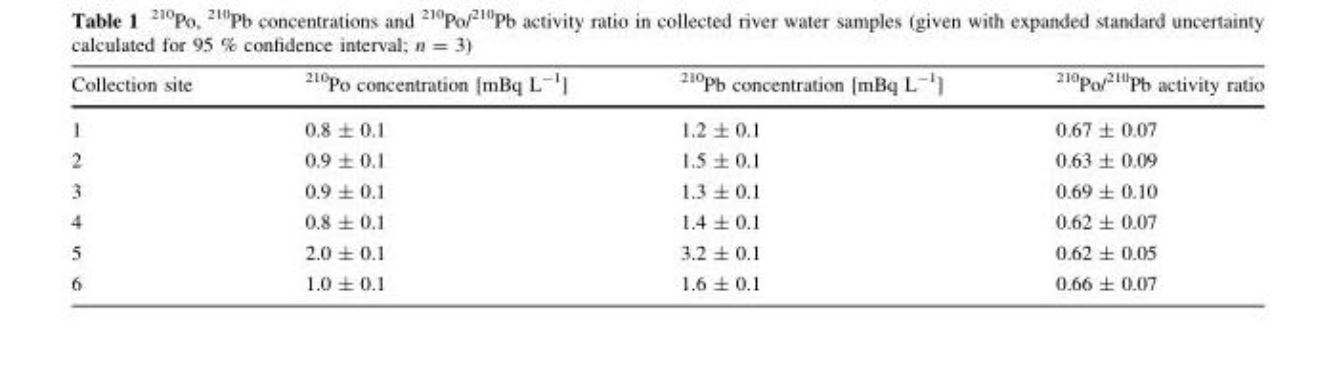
<table><thead><tr><td>Collection site</td><td><sup>210</sup>Po concentration [mBq L<sup>-1</sup>]</td><td><sup>210</sup>Pb concentration [mBq L<sup>-1</sup>]</td><td><sup>210</sup>Po/<sup>210</sup>Pb activity ratio</td></tr></thead><tbody><tr><td>1</td><td>0.8 ± 0.1</td><td>1.2 ± 0.1</td><td>0.67 ± 0.07</td></tr><tr><td>2</td><td>0.9 ± 0.1</td><td>1.5 ± 0.1</td><td>0.63 ± 0.09</td></tr><tr><td>3</td><td>0.9 ± 0.1</td><td>1.3 ± 0.1</td><td>0.69 ± 0.10</td></tr><tr><td>4</td><td>0.8 ± 0.1</td><td>1.4 ± 0.1</td><td>0.62 ± 0.07</td></tr><tr><td>5</td><td>2.0 ± 0.1</td><td>3.2 ± 0.1</td><td>0.62 ± 0.05</td></tr><tr><td>6</td><td>1.0 ± 0.1</td><td>1.6 ± 0.1</td><td>0.66 ± 0.07</td></tr></tbody></table>